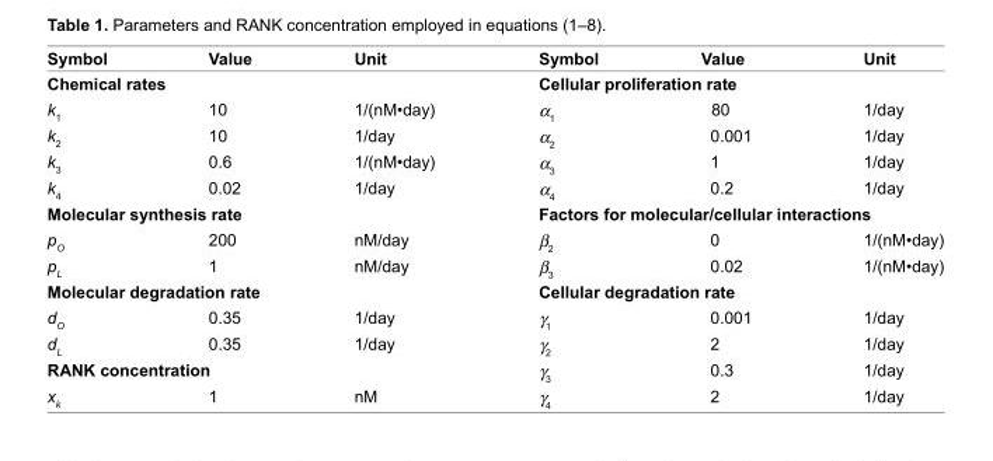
<table><thead><tr><td>symbol</td><td>Value</td><td>Unit</td><td>symbol</td><td>Value</td><td>Unit</td></tr></thead><tbody><tr><td colspan="3">chemical rates</td><td colspan="3">cellular proliferation rate</td></tr><tr><td>k<sub>1</sub></td><td>10</td><td>1/(nM•day)</td><td>α<sub>1</sub></td><td>80</td><td>1/day</td></tr><tr><td>k<sub>2</sub></td><td>10</td><td>1/day</td><td>α<sub>2</sub></td><td>0.001</td><td>1/day</td></tr><tr><td>k<sub>3</sub></td><td>0.6</td><td>1/(nM•day)</td><td>α<sub>3</sub></td><td>1</td><td>1/day</td></tr><tr><td>k<sub>4</sub></td><td>0.02</td><td>1/day</td><td>α<sub>4</sub></td><td>0.2</td><td>1/day</td></tr><tr><td colspan="3">Molecular synthesis rate</td><td colspan="3">Factors for molecular/cellular interactions</td></tr><tr><td>p<sub>O</sub></td><td>200</td><td>nM/day</td><td>β<sub>2</sub></td><td>0</td><td>1/(nM•day)</td></tr><tr><td>p<sub>L</sub></td><td>1</td><td>nM/day</td><td>β<sub>3</sub></td><td>0.02</td><td>1/(nM•day)</td></tr><tr><td colspan="3">Molecular degradation rate</td><td colspan="3">cellular degradation rate</td></tr><tr><td>d<sub>O</sub></td><td>0.35</td><td>1/day</td><td>γ<sub>1</sub></td><td>0.001</td><td>1/day</td></tr><tr><td>d<sub>L</sub></td><td>0.35</td><td>1/day</td><td>γ<sub>2</sub></td><td>2</td><td>1/day</td></tr><tr><td colspan="3">RAnK concentration</td><td>γ<sub>3</sub></td><td>0.3</td><td>1/day</td></tr><tr><td>x<sub>k</sub></td><td>1</td><td>nM</td><td>γ<sub>4</sub></td><td>2</td><td>1/day</td></tr></tbody></table>